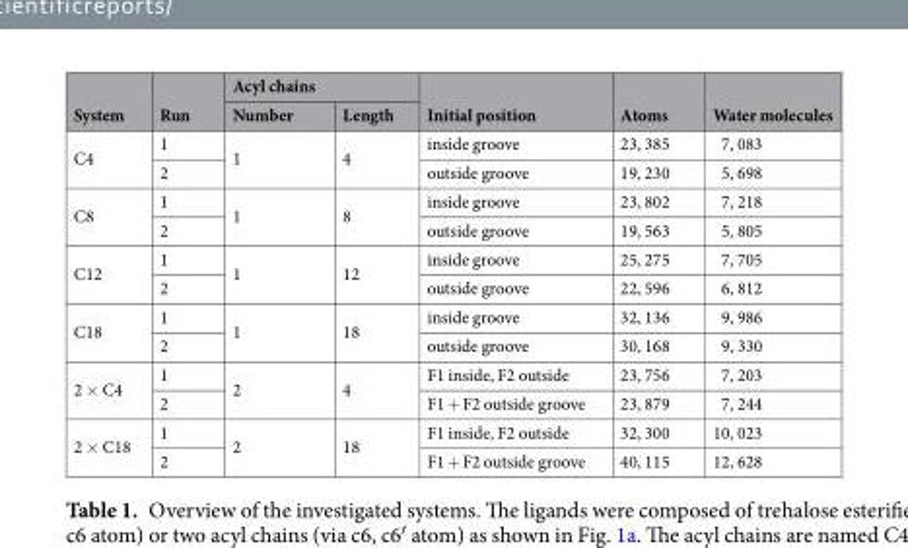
<table><thead><tr><td rowspan="2">System</td><td rowspan="2">Run</td><td colspan="2">Acyl chains</td><td rowspan="2">Initial position</td><td rowspan="2">Atoms</td><td rowspan="2">Water molecules</td></tr><tr><td>Number</td><td>Length</td></tr></thead><tbody><tr><td rowspan="2">C4</td><td>1</td><td rowspan="2">1</td><td rowspan="2">4</td><td>inside groove</td><td>23, 385</td><td>7, 083</td></tr><tr><td>2</td><td>outside groove</td><td>19, 230</td><td>5, 698</td></tr><tr><td rowspan="2">C8</td><td>1</td><td rowspan="2">1</td><td rowspan="2">8</td><td>inside groove</td><td>23, 802</td><td>7, 218</td></tr><tr><td>2</td><td>outside groove</td><td>19, 563</td><td>5, 805</td></tr><tr><td rowspan="2">C12</td><td>1</td><td rowspan="2">1</td><td rowspan="2">12</td><td>inside groove</td><td>25, 275</td><td>7, 705</td></tr><tr><td>2</td><td>outside groove</td><td>22, 596</td><td>6, 812</td></tr><tr><td rowspan="2">C18</td><td>1</td><td rowspan="2">1</td><td rowspan="2">18</td><td>inside groove</td><td>32, 136</td><td>9, 986</td></tr><tr><td>2</td><td>outside groove</td><td>30, 168</td><td>9, 330</td></tr><tr><td rowspan="2">2 × C4</td><td>1</td><td rowspan="2">2</td><td rowspan="2">4</td><td>F1 inside, F2 outside</td><td>23, 756</td><td>7, 203</td></tr><tr><td>2</td><td>F1 + F2 outside groove</td><td>23, 879</td><td>7, 244</td></tr><tr><td rowspan="2">2 × C18</td><td>1</td><td rowspan="2">2</td><td rowspan="2">18</td><td>F1 inside, F2 outside</td><td>32, 300</td><td>10, 023</td></tr><tr><td>2</td><td>F1 + F2 outside groove</td><td>40, 115</td><td>12, 628</td></tr></tbody></table>